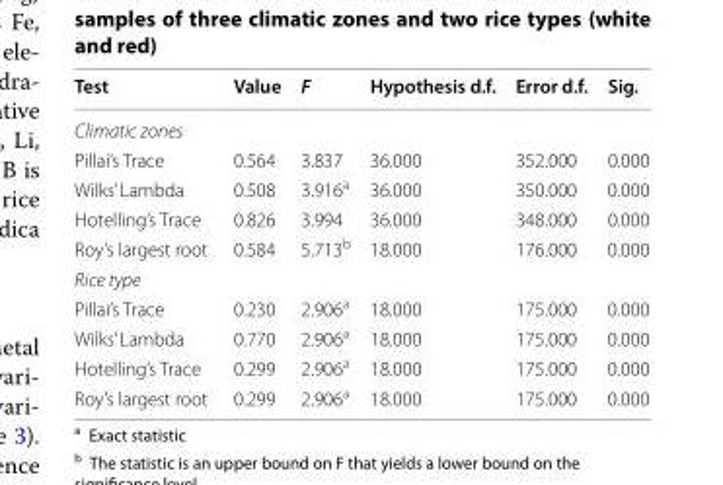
<table><thead><tr><td>Test</td><td>Value</td><td>F</td><td>Hypothesis d.f.</td><td>Error d.f.</td><td>Sig.</td></tr></thead><tbody><tr><td colspan="6">Climatic zones</td></tr><tr><td>Pillai’s Trace</td><td>0.564</td><td>3.837</td><td>36.000</td><td>352.000</td><td>0.000</td></tr><tr><td>Wilks’ Lambda</td><td>0.508</td><td>3.916<sup>a</sup></td><td>36.000</td><td>350.000</td><td>0.000</td></tr><tr><td>Hotelling’s Trace</td><td>0.826</td><td>3.994</td><td>36.000</td><td>348.000</td><td>0.000</td></tr><tr><td>Roy’s largest root</td><td>0.584</td><td>5.713<sup>b</sup></td><td>18.000</td><td>176.000</td><td>0.000</td></tr><tr><td colspan="6">Rice type</td></tr><tr><td>Pillai’s Trace</td><td>0.230</td><td>2.906<sup>a</sup></td><td>18.000</td><td>175.000</td><td>0.000</td></tr><tr><td>Wilks’ Lambda</td><td>0.770</td><td>2.906<sup>a</sup></td><td>18.000</td><td>175.000</td><td>0.000</td></tr><tr><td>Hotelling’s Trace</td><td>0.299</td><td>2.906<sup>a</sup></td><td>18.000</td><td>175.000</td><td>0.000</td></tr><tr><td>Roy’s largest root</td><td>0.299</td><td>2.906<sup>a</sup></td><td>18.000</td><td>175.000</td><td>0.000</td></tr></tbody></table>